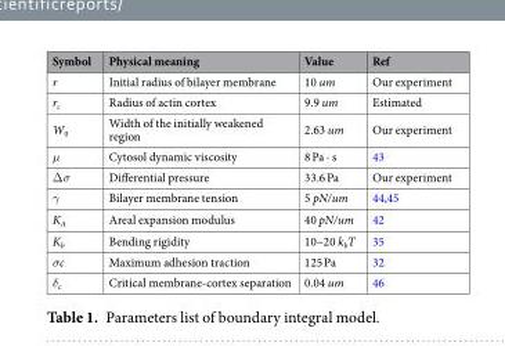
<table><thead><tr><td>Symbol</td><td>Physical meaning</td><td>Value</td><td>Ref</td></tr></thead><tbody><tr><td>r</td><td>Initial radius of bilayer membrane</td><td>10 um</td><td>Our experiment</td></tr><tr><td>r<sub>c</sub></td><td>Radius of actin cortex</td><td>9.9 um</td><td>Estimated</td></tr><tr><td>W<sub>0</sub></td><td>Width of the initially weakened region</td><td>2.63 um</td><td>Our experiment</td></tr><tr><td>μ</td><td>Cytosol dynamic viscosity</td><td>8 Pa · s</td><td>43</td></tr><tr><td>Δσ</td><td>Differential pressure</td><td>33.6 Pa</td><td>Our experiment</td></tr><tr><td>γ</td><td>Bilayer membrane tension</td><td>5 pN/um</td><td>44,45</td></tr><tr><td>K<sub>A</sub></td><td>Areal expansion modulus</td><td>40 pN/um</td><td>42</td></tr><tr><td>K<sub>b</sub></td><td>Bending rigidity</td><td>10~20 k<sub>b</sub>T</td><td>35</td></tr><tr><td>σc</td><td>Maximum adhesion traction</td><td>125 Pa</td><td>32</td></tr><tr><td>δ<sub>c</sub></td><td>Critical membrane-cortex separation</td><td>0.04 um</td><td>46</td></tr></tbody></table>